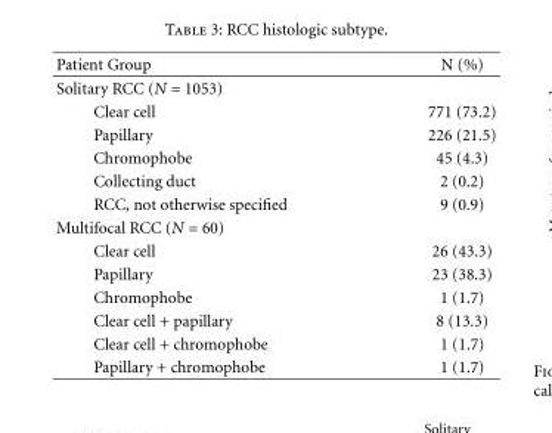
<table><thead><tr><td>Patient Group</td><td>N (%)</td></tr></thead><tbody><tr><td colspan="2">Solitary RCC (N = 1053)</td></tr><tr><td>Clear cell</td><td>771 (73.2)</td></tr><tr><td>Papillary</td><td>226 (21.5)</td></tr><tr><td>Chromophobe</td><td>45 (4.3)</td></tr><tr><td>Collecting duct</td><td>2 (0.2)</td></tr><tr><td>RCC, not otherwise specified</td><td>9 (0.9)</td></tr><tr><td colspan="2">Multifocal RCC (N = 60)</td></tr><tr><td>Clear cell</td><td>26 (43.3)</td></tr><tr><td>Papillary</td><td>23 (38.3)</td></tr><tr><td>Chromophobe</td><td>1 (1.7)</td></tr><tr><td>Clear cell + papillary</td><td>8 (13.3)</td></tr><tr><td>Clear cell + chromophobe</td><td>1 (1.7)</td></tr><tr><td>Papillary + chromophobe</td><td>1 (1.7)</td></tr></tbody></table>